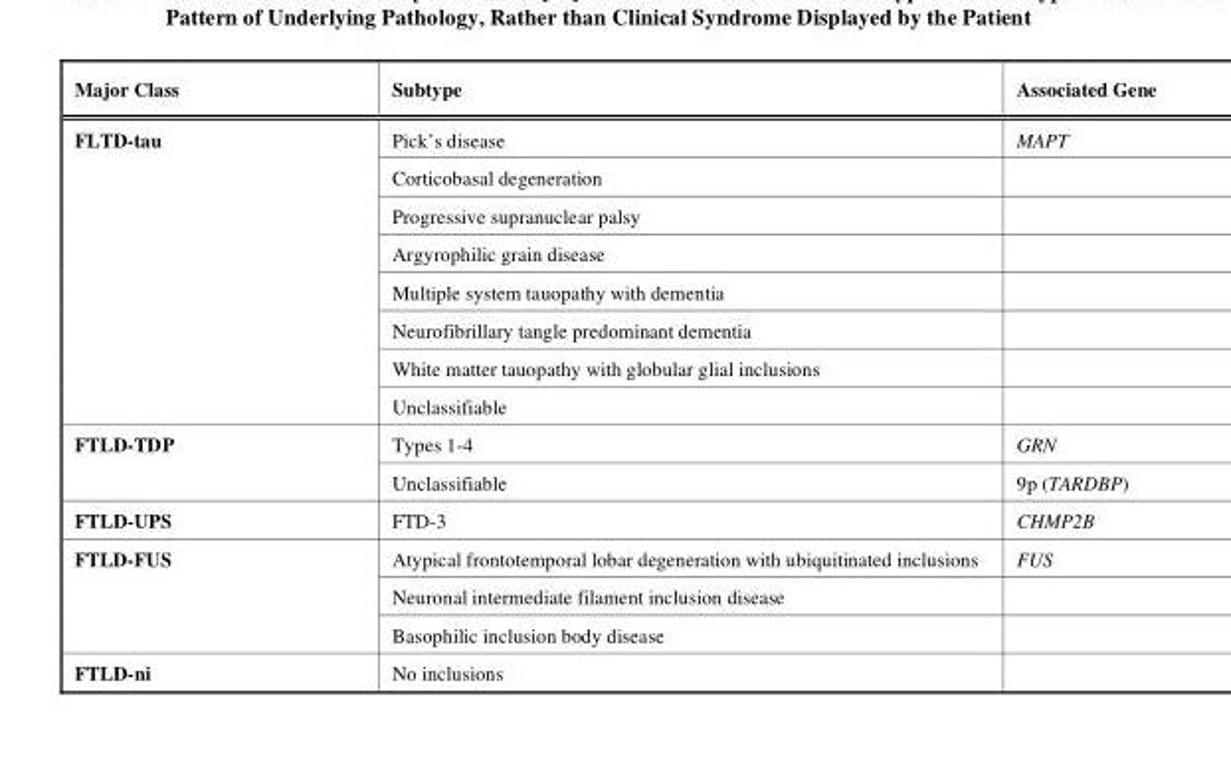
<table><thead><tr><td>Major Class</td><td>Subtype</td><td>Associated Gene</td></tr></thead><tbody><tr><td rowspan="8">FLTD-tau</td><td>Pick’s disease</td><td>MAPT</td></tr><tr><td>Corticobasal degeneration</td><td></td></tr><tr><td>Progressive supranuclear palsy</td><td></td></tr><tr><td>Argyrophilic grain disease</td><td></td></tr><tr><td>Multiple system tauopathy with dementia</td><td></td></tr><tr><td>Neurofibrillary tangle predominant dementia</td><td></td></tr><tr><td>White matter tauopathy with globular glial inclusions</td><td></td></tr><tr><td>Unclassifiable</td><td></td></tr><tr><td rowspan="2">FTLD-TDP</td><td>Types 1-4</td><td>GRN</td></tr><tr><td>Unclassifiable</td><td>9p (TARDBP)</td></tr><tr><td>FTLD-UPS</td><td>FTD-3</td><td>CHMP2B</td></tr><tr><td rowspan="3">FTLD-FUS</td><td>Atypical frontotemporal lobar degeneration with ubiquitinated inclusions</td><td>FUS</td></tr><tr><td>Neuronal intermediate filament inclusion disease</td><td></td></tr><tr><td>Basophilic inclusion body disease</td><td></td></tr><tr><td>FTLD-ni</td><td>No inclusions</td><td></td></tr></tbody></table>